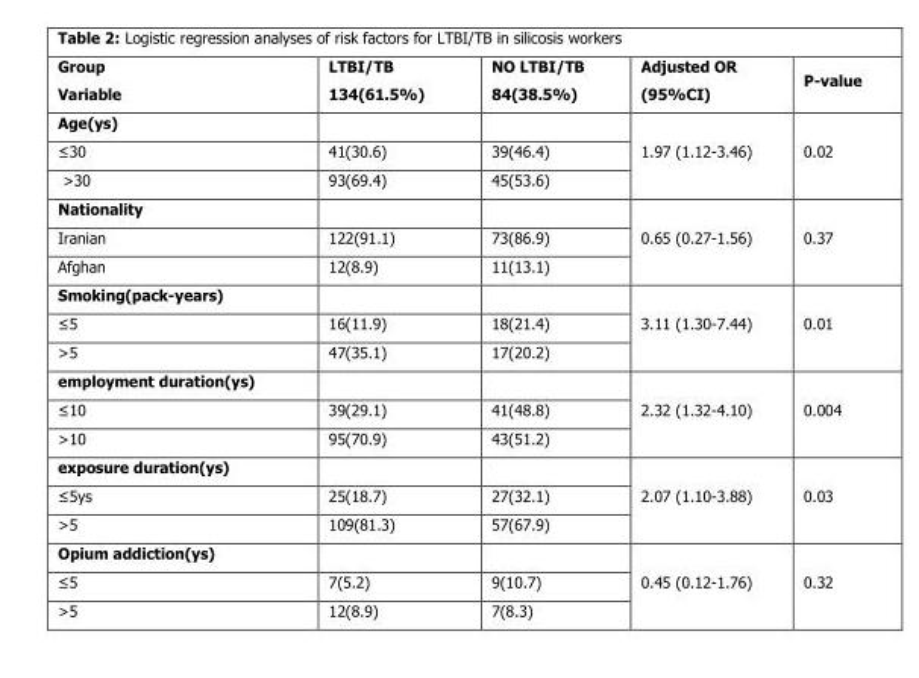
<table><thead><tr><td>Group Variable</td><td>LTBI/TB 134(61.5%)</td><td>NO LTBI/TB 84(38.5%)</td><td>Adjusted OR (95%CI)</td><td>P-value</td></tr></thead><tbody><tr><td colspan="3">Age(ys)</td><td rowspan="3">1.97 (1.12-3.46)</td><td rowspan="3">0.02</td></tr><tr><td>≤30</td><td>41(30.6)</td><td>39(46.4)</td></tr><tr><td>&gt;30</td><td>93(69.4)</td><td>45(53.6)</td></tr><tr><td colspan="3">Nationality</td><td rowspan="3">0.65 (0.27-1.56)</td><td rowspan="3">0.37</td></tr><tr><td>Iranian</td><td>122(91.1)</td><td>73(86.9)</td></tr><tr><td>Afghan</td><td>12(8.9)</td><td>11(13.1)</td></tr><tr><td colspan="3">Smoking(pack-years)</td><td rowspan="3">3.11 (1.30-7.44)</td><td rowspan="3">0.01</td></tr><tr><td>≤5</td><td>16(11.9)</td><td>18(21.4)</td></tr><tr><td>&gt;5</td><td>47(35.1)</td><td>17(20.2)</td></tr><tr><td colspan="3">employment duration(ys)</td><td rowspan="3">2.32 (1.32-4.10)</td><td rowspan="3">0.004</td></tr><tr><td>≤10</td><td>39(29.1)</td><td>41(48.8)</td></tr><tr><td>&gt;10</td><td>95(70.9)</td><td>43(51.2)</td></tr><tr><td colspan="3">exposure duration(ys)</td><td rowspan="3">2.07 (1.10-3.88)</td><td rowspan="3">0.03</td></tr><tr><td>≤5ys</td><td>25(18.7)</td><td>27(32.1)</td></tr><tr><td>&gt;5</td><td>109(81.3)</td><td>57(67.9)</td></tr><tr><td colspan="3">Opium addiction(ys)</td><td rowspan="3">0.45 (0.12-1.76)</td><td rowspan="3">0.32</td></tr><tr><td>≤5</td><td>7(5.2)</td><td>9(10.7)</td></tr><tr><td>&gt;5</td><td>12(8.9)</td><td>7(8.3)</td></tr></tbody></table>